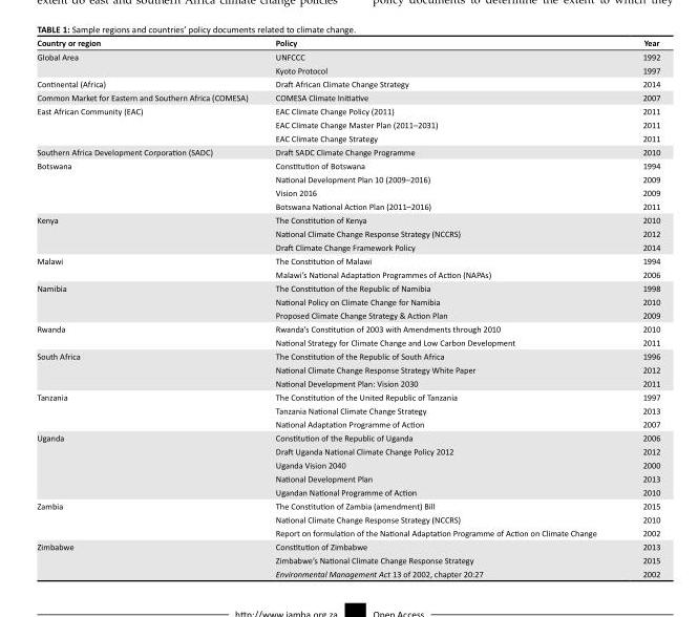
<table><thead><tr><td>Country or region</td><td>Policy</td><td>Year</td></tr></thead><tbody><tr><td rowspan="2">Global Area</td><td>UNFCCC</td><td>1992</td></tr><tr><td>Kyoto Protocol</td><td>1997</td></tr><tr><td>Continental (Africa)</td><td>Draft African Climate Change Strategy</td><td>2014</td></tr><tr><td>Common Market for Eastern and Southern Africa (COMESA)</td><td>COMESA Climate Initiative</td><td>2007</td></tr><tr><td rowspan="3">East African Community (EAC)</td><td>EAC Climate Change Policy (2011)</td><td>2011</td></tr><tr><td>EAC Climate Change Master Plan (2011–2031)</td><td>2011</td></tr><tr><td>EAC Climate Change Strategy</td><td>2011</td></tr><tr><td>Southern Africa Development Corporation (SADC)</td><td>Draft SADC Climate Change Programme</td><td>2010</td></tr><tr><td rowspan="4">Botswana</td><td>Constitution of Botswana</td><td>1994</td></tr><tr><td>National Development Plan 10 (2009–2016)</td><td>2009</td></tr><tr><td>Vision 2016</td><td>2009</td></tr><tr><td>Botswana National Action Plan (2011–2016)</td><td>2011</td></tr><tr><td rowspan="3">Kenya</td><td>The Constitution of Kenya</td><td>2010</td></tr><tr><td>National Climate Change Response Strategy (NCCRS)</td><td>2012</td></tr><tr><td>Draft Climate Change Framework Policy</td><td>2014</td></tr><tr><td rowspan="2">Malawi</td><td>The Constitution of Malawi</td><td>1994</td></tr><tr><td>Malawi’s National Adaptation Programmes of Action (NAPAs)</td><td>2006</td></tr><tr><td rowspan="3">Namibia</td><td>The Constitution of the Republic of Namibia</td><td>1998</td></tr><tr><td>National Policy on Climate Change for Namibia</td><td>2010</td></tr><tr><td>Proposed Climate Change Strategy &amp; Action Plan</td><td>2009</td></tr><tr><td rowspan="2">Rwanda</td><td>Rwanda’s Constitution of 2003 with Amendments through 2010</td><td>2010</td></tr><tr><td>National Strategy for Climate Change and Low Carbon Development</td><td>2011</td></tr><tr><td rowspan="3">South Africa</td><td>The Constitution of the Republic of South Africa</td><td>1996</td></tr><tr><td>National Climate Change Response Strategy White Paper</td><td>2012</td></tr><tr><td>National Development Plan: Vision 2030</td><td>2011</td></tr><tr><td rowspan="3">Tanzania</td><td>The Constitution of the United Republic of Tanzania</td><td>1997</td></tr><tr><td>Tanzania National Climate Change Strategy</td><td>2013</td></tr><tr><td>National Adaptation Programme of Action</td><td>2007</td></tr><tr><td rowspan="5">Uganda</td><td>Constitution of the Republic of Uganda</td><td>2006</td></tr><tr><td>Draft Uganda National Climate Change Policy 2012</td><td>2012</td></tr><tr><td>Uganda Vision 2040</td><td>2000</td></tr><tr><td>National Development Plan</td><td>2013</td></tr><tr><td>Ugandan National Programme of Action</td><td>2010</td></tr><tr><td rowspan="3">Zambia</td><td>The Constitution of Zambia (amendment) Bill</td><td>2015</td></tr><tr><td>National Climate Change Response Strategy (NCCRS)</td><td>2010</td></tr><tr><td>Report on formulation of the National Adaptation Programme of Action on Climate Change</td><td>2002</td></tr><tr><td rowspan="3">Zimbabwe</td><td>Constitution of Zimbabwe</td><td>2013</td></tr><tr><td>Zimbabwe’s National Climate Change Response Strategy</td><td>2015</td></tr><tr><td>Environmental Management Act 13 of 2002, chapter 20:27</td><td>2002</td></tr></tbody></table>